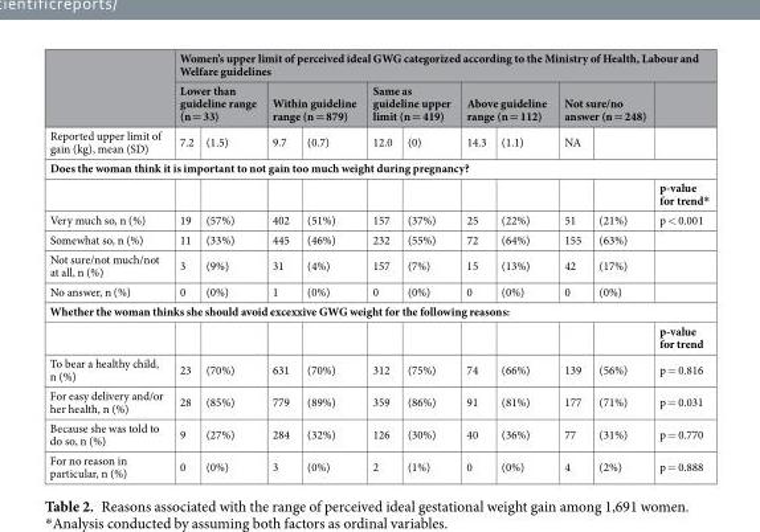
<table><thead><tr><td rowspan="3">Reported upper limit of gain (kg), mean (SD)</td><td colspan="11">Women’s upper limit of perceived ideal GWG categorized according to the Ministry of Health, Labour and Welfare guidelines</td></tr><tr><td colspan="2">Lower than guideline range (n = 33)</td><td colspan="2">Within guideline range (n = 879)</td><td colspan="2">Same as guideline upper limit (n = 419)</td><td colspan="2">Above guideline range (n = 112)</td><td colspan="2">Not sure/no answer (n = 248)</td><td rowspan="2"></td></tr><tr><td>7.2</td><td>(1.5)</td><td>9.7</td><td>(0.7)</td><td>12.0</td><td>(0)</td><td>14.3</td><td>(1.1)</td><td>NA</td><td></td></tr></thead><tbody><tr><td colspan="12">Does the woman think it is important to not gain too much weight during pregnancy?</td></tr><tr><td></td><td></td><td></td><td></td><td></td><td></td><td></td><td></td><td></td><td></td><td></td><td>p-value for trend*</td></tr><tr><td>Very much so, n (%)</td><td>19</td><td>(57%)</td><td>402</td><td>(51%)</td><td>157</td><td>(37%)</td><td>25</td><td>(22%)</td><td>51</td><td>(21%)</td><td>p &lt; 0.001</td></tr><tr><td>Somewhat so, n (%)</td><td>11</td><td>(33%)</td><td>445</td><td>(46%)</td><td>232</td><td>(55%)</td><td>72</td><td>(64%)</td><td>155</td><td>(63%)</td><td></td></tr><tr><td>Not sure/not much/not at all, n (%)</td><td>3</td><td>(9%)</td><td>31</td><td>(4%)</td><td>157</td><td>(7%)</td><td>15</td><td>(13%)</td><td>42</td><td>(17%)</td><td></td></tr><tr><td>No answer, n (%)</td><td>0</td><td>(0%)</td><td>1</td><td>(0%)</td><td>0</td><td>(0%)</td><td>0</td><td>(0%)</td><td>0</td><td>(0%)</td><td></td></tr><tr><td colspan="12">Whether the woman thinks she should avoid excexxive GWG weight for the following reasons:</td></tr><tr><td></td><td></td><td></td><td></td><td></td><td></td><td></td><td></td><td></td><td></td><td></td><td>p-value for trend</td></tr><tr><td>To bear a healthy child, n (%)</td><td>23</td><td>(70%)</td><td>631</td><td>(70%)</td><td>312</td><td>(75%)</td><td>74</td><td>(66%)</td><td>139</td><td>(56%)</td><td>p = 0.816</td></tr><tr><td>For easy delivery and/or her health, n (%)</td><td>28</td><td>(85%)</td><td>779</td><td>(89%)</td><td>359</td><td>(86%)</td><td>91</td><td>(81%)</td><td>177</td><td>(71%)</td><td>p = 0.031</td></tr><tr><td>Because she was told to do so, n (%)</td><td>9</td><td>(27%)</td><td>284</td><td>(32%)</td><td>126</td><td>(30%)</td><td>40</td><td>(36%)</td><td>77</td><td>(31%)</td><td>p = 0.770</td></tr><tr><td>For no reason in particular, n (%)</td><td>0</td><td>(0%)</td><td>3</td><td>(0%)</td><td>2</td><td>(1%)</td><td>0</td><td>(0%)</td><td>4</td><td>(2%)</td><td>p = 0.888</td></tr></tbody></table>